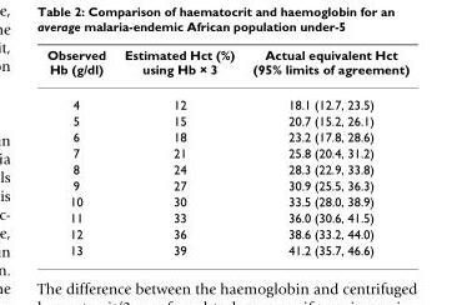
<table><thead><tr><td>Observed Hb (g/dl)</td><td>Estimated Hct (%) using Hb × 3</td><td>Actual equivalent Hct (95% limits of agreement)</td></tr></thead><tbody><tr><td>4</td><td>12</td><td>18.1 (12.7, 23.5)</td></tr><tr><td>5</td><td>15</td><td>20.7 (15.2, 26.1)</td></tr><tr><td>6</td><td>18</td><td>23.2 (17.8, 28.6)</td></tr><tr><td>7</td><td>21</td><td>25.8 (20.4, 31.2)</td></tr><tr><td>8</td><td>24</td><td>28.3 (22.9, 33.8)</td></tr><tr><td>9</td><td>27</td><td>30.9 (25.5, 36.3)</td></tr><tr><td>10</td><td>30</td><td>33.5 (28.0, 38.9)</td></tr><tr><td>11</td><td>33</td><td>36.0 (30.6, 41.5)</td></tr><tr><td>12</td><td>36</td><td>38.6 (33.2, 44.0)</td></tr><tr><td>13</td><td>39</td><td>41.2 (35.7, 46.6)</td></tr></tbody></table>